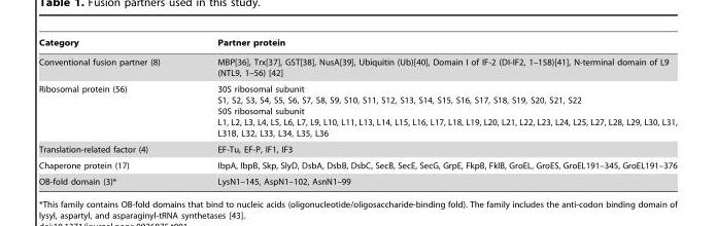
<table><thead><tr><td>Category</td><td>Partner protein</td></tr></thead><tbody><tr><td>Conventional fusion partner (8)</td><td>MBP[36], Trx[37], GST[38], NusA[39], Ubiquitin (Ub)[40], Domain I of IF-2 (DI-IF2, 1–158)[41], N-terminal domain of L9 (NTL9, 1–56) [42]</td></tr><tr><td>Ribosomal protein (56)</td><td>30S ribosomal subunit S1, S2, S3, S4, S5, S6, S7, S8, S9, S10, S11, S12, S13, S14, S15, S16, S17, S18, S19, S20, S21, S22 50S ribosomal subunit L1, L2, L3, L4, L5, L6, L7, L9, L10, L11, L13, L14, L15, L16, L17, L18, L19, L20, L21, L22, L23, L24, L25, L27, L28, L29, L30, L31, L31B, L32, L33, L34, L35, L36</td></tr><tr><td>Translation-related factor (4)</td><td>EF-Tu, EF-P, IF1, IF3</td></tr><tr><td>Chaperone protein (17)</td><td>IbpA, IbpB, Skp, SlyD, DsbA, DsbB, DsbC, SecB, SecE, SecG, GrpE, FkpB, FklB, GroEL, GroES, GroEL191–345, GroEL191–376</td></tr><tr><td>OB-fold domain (3)*</td><td>LysN1–145, AspN1–102, AsnN1–99</td></tr></tbody></table>